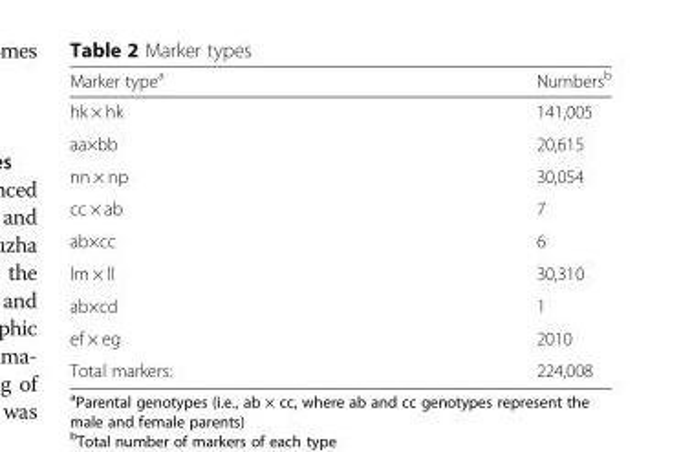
<table><thead><tr><td>Marker type<sup>a</sup></td><td>Numbers<sup>b</sup></td></tr></thead><tbody><tr><td>hk × hk</td><td>141,005</td></tr><tr><td>aa×bb</td><td>20,615</td></tr><tr><td>nn × np</td><td>30,054</td></tr><tr><td>cc × ab</td><td>7</td></tr><tr><td>ab×cc</td><td>6</td></tr><tr><td>lm × ll</td><td>30,310</td></tr><tr><td>ab×cd</td><td>1</td></tr><tr><td>ef × eg</td><td>2010</td></tr><tr><td>Total markers:</td><td>224,008</td></tr></tbody></table>